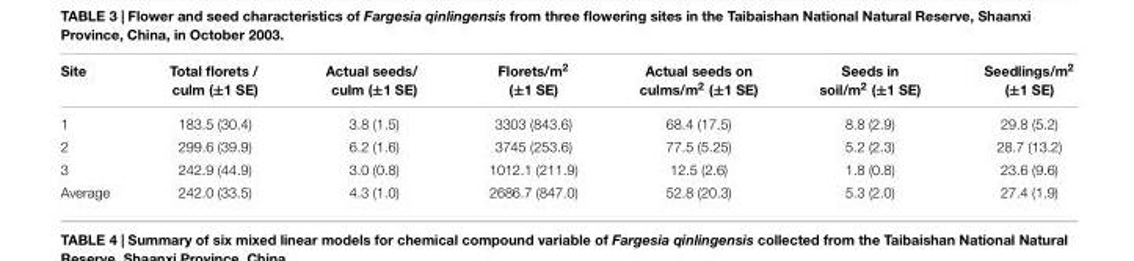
<table><thead><tr><td>Site</td><td>Total florets / culm (±1 SE)</td><td>Actual seeds/ culm (±1 SE)</td><td>Florets/m<sup>2</sup> (±1 SE)</td><td>Actual seeds on culms/m<sup>2</sup> (±1 SE)</td><td>Seeds in soil/m<sup>2</sup> (±1 SE)</td><td>Seedlings/m<sup>2</sup> (±1 SE)</td></tr></thead><tbody><tr><td>1</td><td>183.5 (30.4)</td><td>3.8 (1.5)</td><td>3303 (843.6)</td><td>68.4 (17.5)</td><td>8.8 (2.9)</td><td>29.8 (5.2)</td></tr><tr><td>2</td><td>299.6 (39.9)</td><td>6.2 (1.6)</td><td>3745 (253.6)</td><td>77.5 (5.25)</td><td>5.2 (2.3)</td><td>28.7 (13.2)</td></tr><tr><td>3</td><td>242.9 (44.9)</td><td>3.0 (0.8)</td><td>1012.1 (211.9)</td><td>12.5 (2.6)</td><td>1.8 (0.8)</td><td>23.6 (9.6)</td></tr><tr><td>Average</td><td>242.0 (33.5)</td><td>4.3 (1.0)</td><td>2686.7 (847.0)</td><td>52.8 (20.3)</td><td>5.3 (2.0)</td><td>27.4 (1.9)</td></tr></tbody></table>